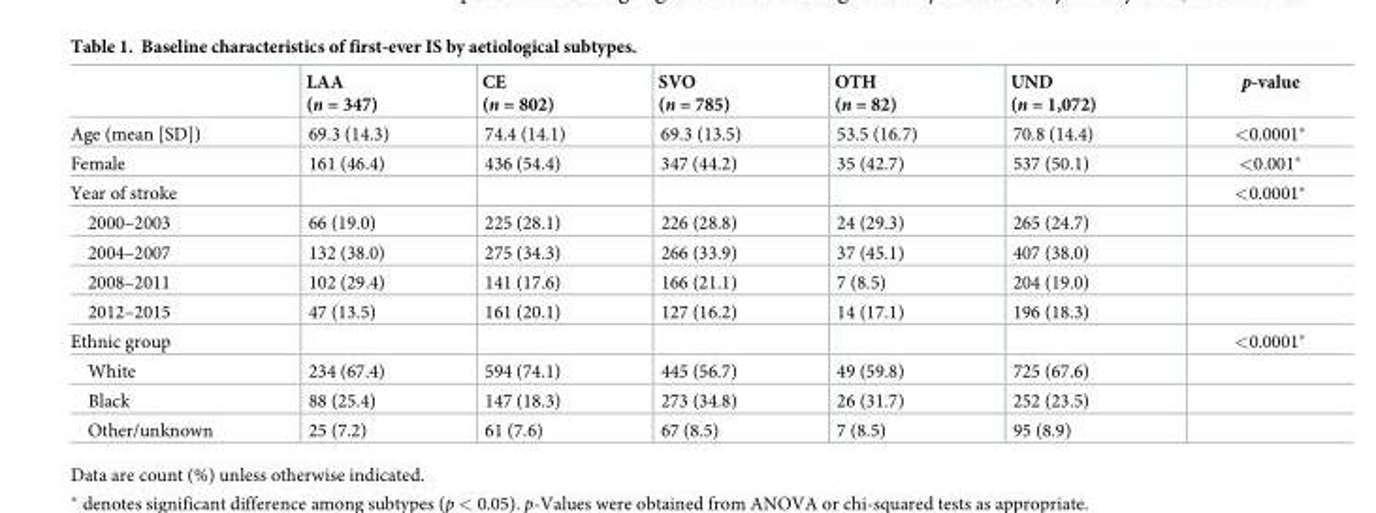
<table><thead><tr><td></td><td>LAA (n = 347)</td><td>CE (n = 802)</td><td>SVO (n = 785)</td><td>OTH (n = 82)</td><td>UND (n = 1,072)</td><td>p-value</td></tr></thead><tbody><tr><td>Age (mean [SD])</td><td>69.3 (14.3)</td><td>74.4 (14.1)</td><td>69.3 (13.5)</td><td>53.5 (16.7)</td><td>70.8 (14.4)</td><td>&lt;0.0001*</td></tr><tr><td>Female</td><td>161 (46.4)</td><td>436 (54.4)</td><td>347 (44.2)</td><td>35 (42.7)</td><td>537 (50.1)</td><td>&lt;0.001*</td></tr><tr><td>Year of stroke</td><td></td><td></td><td></td><td></td><td></td><td>&lt;0.0001*</td></tr><tr><td>2000–2003</td><td>66 (19.0)</td><td>225 (28.1)</td><td>226 (28.8)</td><td>24 (29.3)</td><td>265 (24.7)</td><td></td></tr><tr><td>2004–2007</td><td>132 (38.0)</td><td>275 (34.3)</td><td>266 (33.9)</td><td>37 (45.1)</td><td>407 (38.0)</td><td></td></tr><tr><td>2008–2011</td><td>102 (29.4)</td><td>141 (17.6)</td><td>166 (21.1)</td><td>7 (8.5)</td><td>204 (19.0)</td><td></td></tr><tr><td>2012–2015</td><td>47 (13.5)</td><td>161 (20.1)</td><td>127 (16.2)</td><td>14 (17.1)</td><td>196 (18.3)</td><td></td></tr><tr><td>Ethnic group</td><td></td><td></td><td></td><td></td><td></td><td>&lt;0.0001*</td></tr><tr><td>White</td><td>234 (67.4)</td><td>594 (74.1)</td><td>445 (56.7)</td><td>49 (59.8)</td><td>725 (67.6)</td><td></td></tr><tr><td>Black</td><td>88 (25.4)</td><td>147 (18.3)</td><td>273 (34.8)</td><td>26 (31.7)</td><td>252 (23.5)</td><td></td></tr><tr><td>Other/unknown</td><td>25 (7.2)</td><td>61 (7.6)</td><td>67 (8.5)</td><td>7 (8.5)</td><td>95 (8.9)</td><td></td></tr></tbody></table>